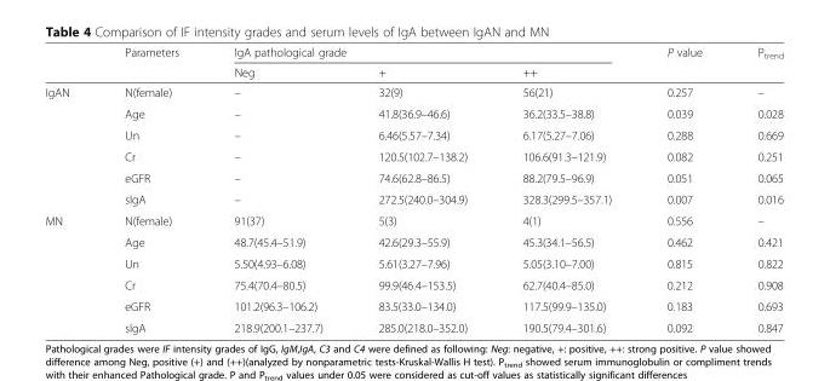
<table><thead><tr><td rowspan="2"></td><td rowspan="2">Parameters</td><td colspan="3">IgA pathological grade</td><td rowspan="2">P value</td><td rowspan="2">P<sub>trend</sub></td></tr><tr><td>Neg</td><td>+</td><td>++</td></tr></thead><tbody><tr><td rowspan="6">IgAN</td><td>N(female)</td><td>–</td><td>32(9)</td><td>56(21)</td><td>0.257</td><td>–</td></tr><tr><td>Age</td><td>–</td><td>41.8(36.9–46.6)</td><td>36.2(33.5–38.8)</td><td>0.039</td><td>0.028</td></tr><tr><td>Un</td><td>–</td><td>6.46(5.57–7.34)</td><td>6.17(5.27–7.06)</td><td>0.288</td><td>0.669</td></tr><tr><td>Cr</td><td>–</td><td>120.5(102.7–138.2)</td><td>106.6(91.3–121.9)</td><td>0.082</td><td>0.251</td></tr><tr><td>eGFR</td><td>–</td><td>74.6(62.8–86.5)</td><td>88.2(79.5–96.9)</td><td>0.051</td><td>0.065</td></tr><tr><td>sIgA</td><td>–</td><td>272.5(240.0–304.9)</td><td>328.3(299.5–357.1)</td><td>0.007</td><td>0.016</td></tr><tr><td rowspan="6">MN</td><td>N(female)</td><td>91(37)</td><td>5(3)</td><td>4(1)</td><td>0.556</td><td>–</td></tr><tr><td>Age</td><td>48.7(45.4–51.9)</td><td>42.6(29.3–55.9)</td><td>45.3(34.1–56.5)</td><td>0.462</td><td>0.421</td></tr><tr><td>Un</td><td>5.50(4.93–6.08)</td><td>5.61(3.27–7.96)</td><td>5.05(3.10–7.00)</td><td>0.815</td><td>0.822</td></tr><tr><td>Cr</td><td>75.4(70.4–80.5)</td><td>99.9(46.4–153.5)</td><td>62.7(40.4–85.0)</td><td>0.212</td><td>0.908</td></tr><tr><td>eGFR</td><td>101.2(96.3–106.2)</td><td>83.5(33.0–134.0)</td><td>117.5(99.9–135.0)</td><td>0.183</td><td>0.693</td></tr><tr><td>sIgA</td><td>218.9(200.1–237.7)</td><td>285.0(218.0–352.0)</td><td>190.5(79.4–301.6)</td><td>0.092</td><td>0.847</td></tr></tbody></table>